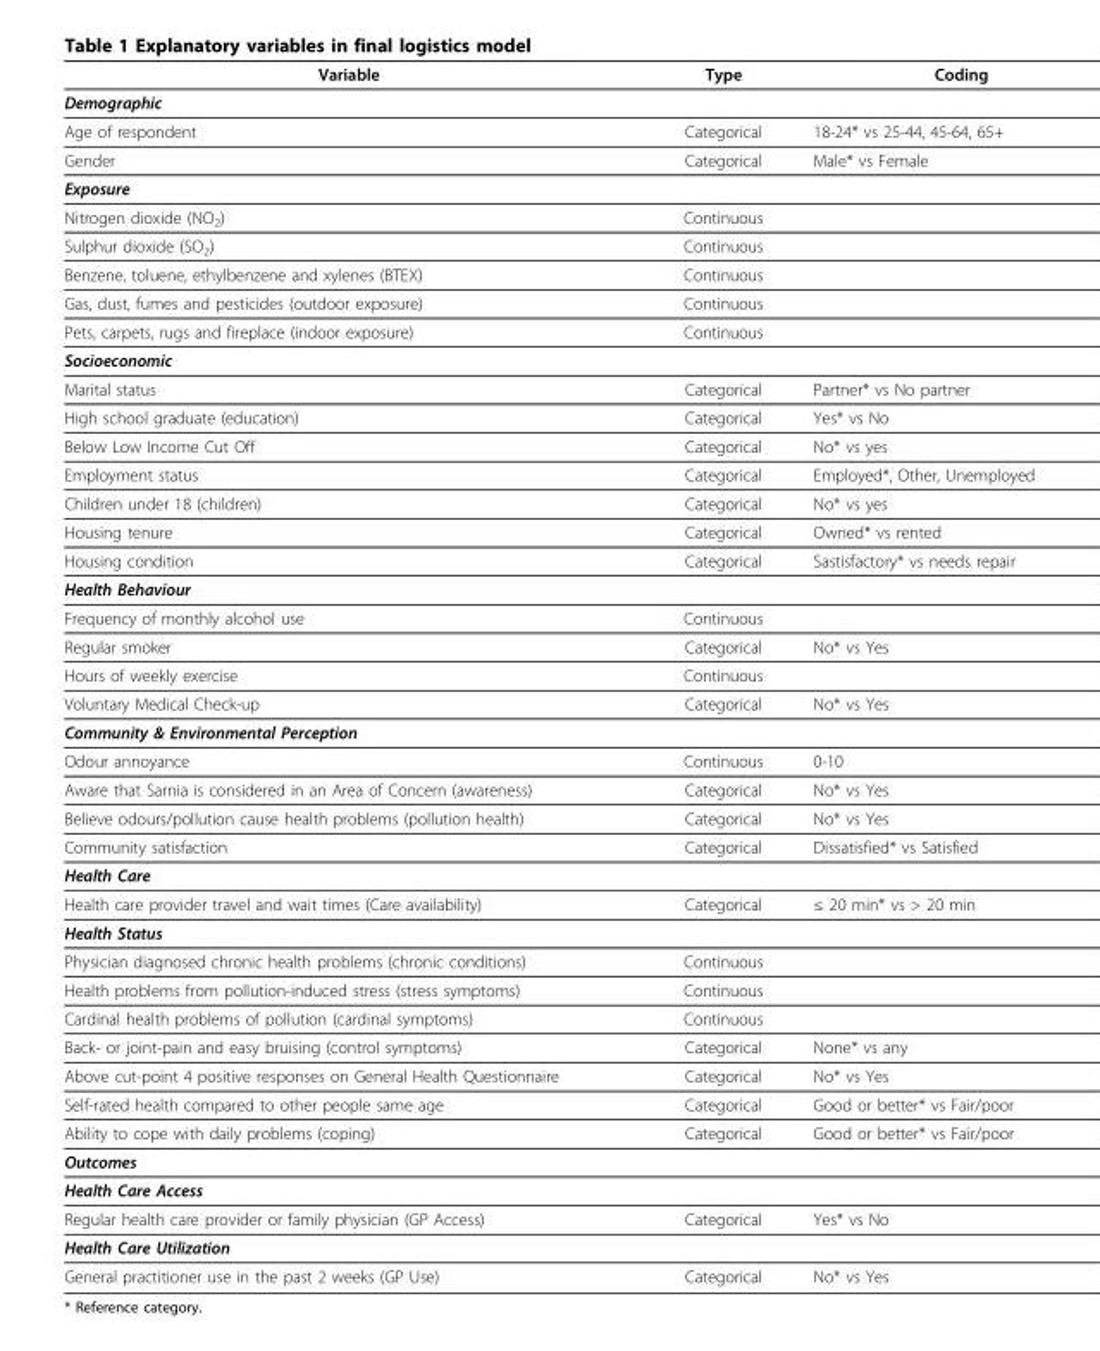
<table><thead><tr><td>Variable</td><td>Type</td><td>Coding</td></tr></thead><tbody><tr><td colspan="3">Demographic</td></tr><tr><td>Age of respondent</td><td>Categorical</td><td>18-24* vs 25-44, 45-64, 65+</td></tr><tr><td>Gender</td><td>Categorical</td><td>Male* vs Female</td></tr><tr><td colspan="3">Exposure</td></tr><tr><td>Nitrogen dioxide (NO<sub>2</sub>)</td><td>Continuous</td><td></td></tr><tr><td>Sulphur dioxide (SO<sub>2</sub>)</td><td>Continuous</td><td></td></tr><tr><td>Benzene, toluene, ethylbenzene and xylenes (BTEX)</td><td>Continuous</td><td></td></tr><tr><td>Gas, dust, fumes and pesticides (outdoor exposure)</td><td>Continuous</td><td></td></tr><tr><td>Pets, carpets, rugs and fireplace (indoor exposure)</td><td>Continuous</td><td></td></tr><tr><td colspan="3">Socioeconomic</td></tr><tr><td>Marital status</td><td>Categorical</td><td>Partner* vs No partner</td></tr><tr><td>High school graduate (education)</td><td>Categorical</td><td>Yes* vs No</td></tr><tr><td>Below Low Income Cut Off</td><td>Categorical</td><td>No* vs yes</td></tr><tr><td>Employment status</td><td>Categorical</td><td>Employed*, Other, Unemployed</td></tr><tr><td>Children under 18 (children)</td><td>Categorical</td><td>No* vs yes</td></tr><tr><td>Housing tenure</td><td>Categorical</td><td>Owned* vs rented</td></tr><tr><td>Housing condition</td><td>Categorical</td><td>Sastisfactory* vs needs repair</td></tr><tr><td colspan="3">Health Behaviour</td></tr><tr><td>Frequency of monthly alcohol use</td><td>Continuous</td><td></td></tr><tr><td>Regular smoker</td><td>Categorical</td><td>No* vs Yes</td></tr><tr><td>Hours of weekly exercise</td><td>Continuous</td><td></td></tr><tr><td>Voluntary Medical Check-up</td><td>Categorical</td><td>No* vs Yes</td></tr><tr><td colspan="3">Community &amp; Environmental Perception</td></tr><tr><td>Odour annoyance</td><td>Continuous</td><td>0-10</td></tr><tr><td>Aware that Sarnia is considered in an Area of Concern (awareness)</td><td>Categorical</td><td>No* vs Yes</td></tr><tr><td>Believe odours/pollution cause health problems (pollution health)</td><td>Categorical</td><td>No* vs Yes</td></tr><tr><td>Community satisfaction</td><td>Categorical</td><td>Dissatisfied* vs Satisfied</td></tr><tr><td colspan="3">Health Care</td></tr><tr><td>Health care provider travel and wait times (Care availability)</td><td>Categorical</td><td>≤ 20 min* vs &gt; 20 min</td></tr><tr><td colspan="3">Health Status</td></tr><tr><td>Physician diagnosed chronic health problems (chronic conditions)</td><td>Continuous</td><td></td></tr><tr><td>Health problems from pollution-induced stress (stress symptoms)</td><td>Continuous</td><td></td></tr><tr><td>Cardinal health problems of pollution (cardinal symptoms)</td><td>Continuous</td><td></td></tr><tr><td>Back- or joint-pain and easy bruising (control symptoms)</td><td>Categorical</td><td>None* vs any</td></tr><tr><td>Above cut-point 4 positive responses on General Health Questionnaire</td><td>Categorical</td><td>No* vs Yes</td></tr><tr><td>Self-rated health compared to other people same age</td><td>Categorical</td><td>Good or better* vs Fair/poor</td></tr><tr><td>Ability to cope with daily problems (coping)</td><td>Categorical</td><td>Good or better* vs Fair/poor</td></tr><tr><td colspan="3">Outcomes</td></tr><tr><td colspan="3">Health Care Access</td></tr><tr><td>Regular health care provider or family physician (GP Access)</td><td>Categorical</td><td>Yes* vs No</td></tr><tr><td colspan="3">Health Care Utilization</td></tr><tr><td>General practitioner use in the past 2 weeks (GP Use)</td><td>Categorical</td><td>No* vs Yes</td></tr></tbody></table>